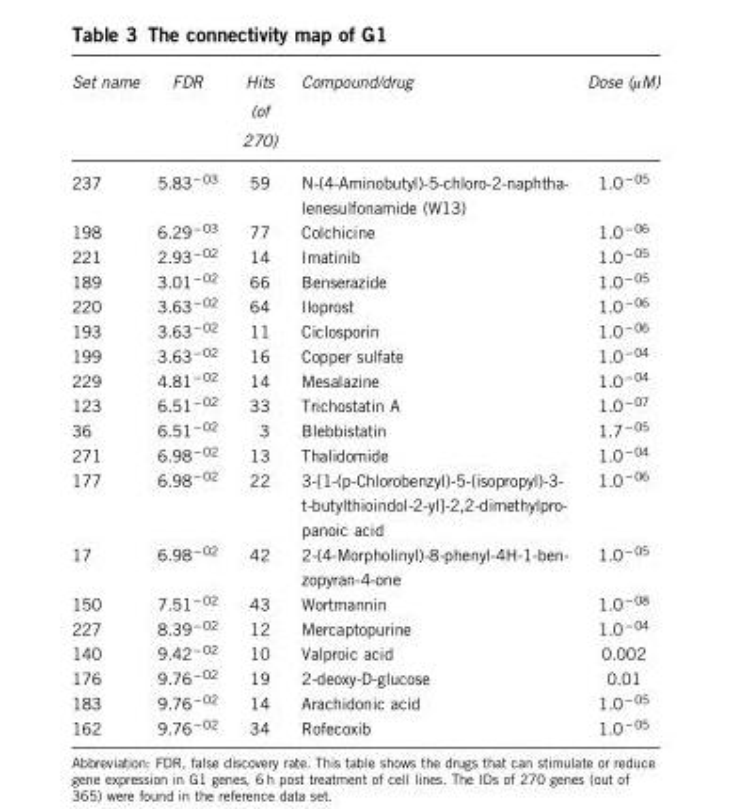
<table><thead><tr><td>Set name</td><td>FDR</td><td>Hits (of 270)</td><td>Compound/drug</td><td>Dose (μM)</td></tr></thead><tbody><tr><td>237</td><td>5.83<sup>− 03</sup></td><td>59</td><td>N-(4-Aminobutyl)-5-chloro-2-naphtha- lenesulfonamide (W13)</td><td>1.0 <sup>− 05</sup></td></tr><tr><td>198</td><td>6.29<sup>− 03</sup></td><td>77</td><td>Colchicine</td><td>1.0 <sup>− 06</sup></td></tr><tr><td>221</td><td>2.93<sup>− 02</sup></td><td>14</td><td>Imatinib</td><td>1.0 <sup>− 05</sup></td></tr><tr><td>189</td><td>3.01<sup>− 02</sup></td><td>66</td><td>Benserazide</td><td>1.0 <sup>− 05</sup></td></tr><tr><td>220</td><td>3.63<sup>− 02</sup></td><td>64</td><td>Iloprost</td><td>1.0 <sup>− 06</sup></td></tr><tr><td>193</td><td>3.63<sup>− 02</sup></td><td>11</td><td>Ciclosporin</td><td>1.0 <sup>− 06</sup></td></tr><tr><td>199</td><td>3.63<sup>− 02</sup></td><td>16</td><td>Copper sulfate</td><td>1.0 <sup>− 04</sup></td></tr><tr><td>229</td><td>4.81<sup>− 02</sup></td><td>14</td><td>Mesalazine</td><td>1.0 <sup>− 04</sup></td></tr><tr><td>123</td><td>6.51<sup>− 02</sup></td><td>33</td><td>Trichostatin A</td><td>1.0 <sup>− 07</sup></td></tr><tr><td>36</td><td>6.51<sup>− 02</sup></td><td>3</td><td>Blebbistatin</td><td>1.7 <sup>− 05</sup></td></tr><tr><td>271</td><td>6.98<sup>− 02</sup></td><td>13</td><td>Thalidomide</td><td>1.0 <sup>− 04</sup></td></tr><tr><td>177</td><td>6.98<sup>− 02</sup></td><td>22</td><td>3-[1-(p-Chlorobenzyl)-5-(isopropyl)-3- t-butylthioindol-2-yl]-2,2-dimethylpro- panoic acid</td><td>1.0 <sup>− 06</sup></td></tr><tr><td>17</td><td>6.98<sup>− 02</sup></td><td>42</td><td>2-(4-Morpholinyl)-8-phenyl-4H-1-ben- zopyran-4-one</td><td>1.0 <sup>− 05</sup></td></tr><tr><td>150</td><td>7.51<sup>− 02</sup></td><td>43</td><td>Wortmannin</td><td>1.0 <sup>− 08</sup></td></tr><tr><td>227</td><td>8.39<sup>− 02</sup></td><td>12</td><td>Mercaptopurine</td><td>1.0 <sup>− 04</sup></td></tr><tr><td>140</td><td>9.42<sup>− 02</sup></td><td>10</td><td>Valproic acid</td><td>0.002</td></tr><tr><td>176</td><td>9.76<sup>− 02</sup></td><td>19</td><td>2-deoxy-D-glucose</td><td>0.01</td></tr><tr><td>183</td><td>9.76<sup>− 02</sup></td><td>14</td><td>Arachidonic acid</td><td>1.0 <sup>− 05</sup></td></tr><tr><td>162</td><td>9.76<sup>− 02</sup></td><td>34</td><td>Rofecoxib</td><td>1.0 <sup>− 05</sup></td></tr></tbody></table>